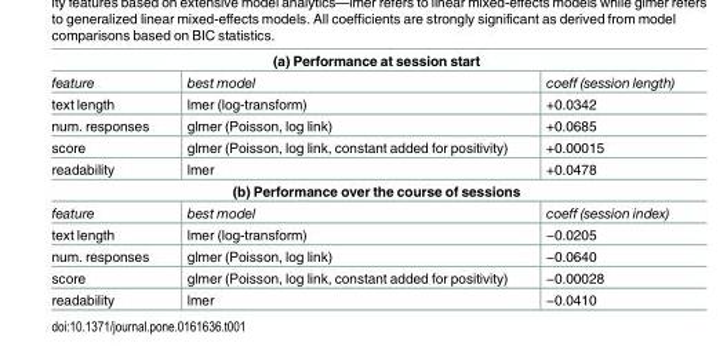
<table><tbody><tr><td colspan="3">(a) Performance at session start</td></tr><tr><td>feature</td><td>best model</td><td>coeff (session length)</td></tr><tr><td>text length</td><td>lmer (log-transform)</td><td>+0.0342</td></tr><tr><td>num. responses</td><td>glmer (Poisson, log link)</td><td>+0.0685</td></tr><tr><td>score</td><td>glmer (Poisson, log link, constant added for positivity)</td><td>+0.00015</td></tr><tr><td>readability</td><td>lmer</td><td>+0.0478</td></tr><tr><td colspan="3">(b) Performance over the course of sessions</td></tr><tr><td>feature</td><td>best model</td><td>coeff (session index)</td></tr><tr><td>text length</td><td>lmer (log-transform)</td><td>−0.0205</td></tr><tr><td>num. responses</td><td>glmer (Poisson, log link)</td><td>−0.0640</td></tr><tr><td>score</td><td>glmer (Poisson, log link, constant added for positivity)</td><td>−0.00028</td></tr><tr><td>readability</td><td>lmer</td><td>−0.0410</td></tr></tbody></table>